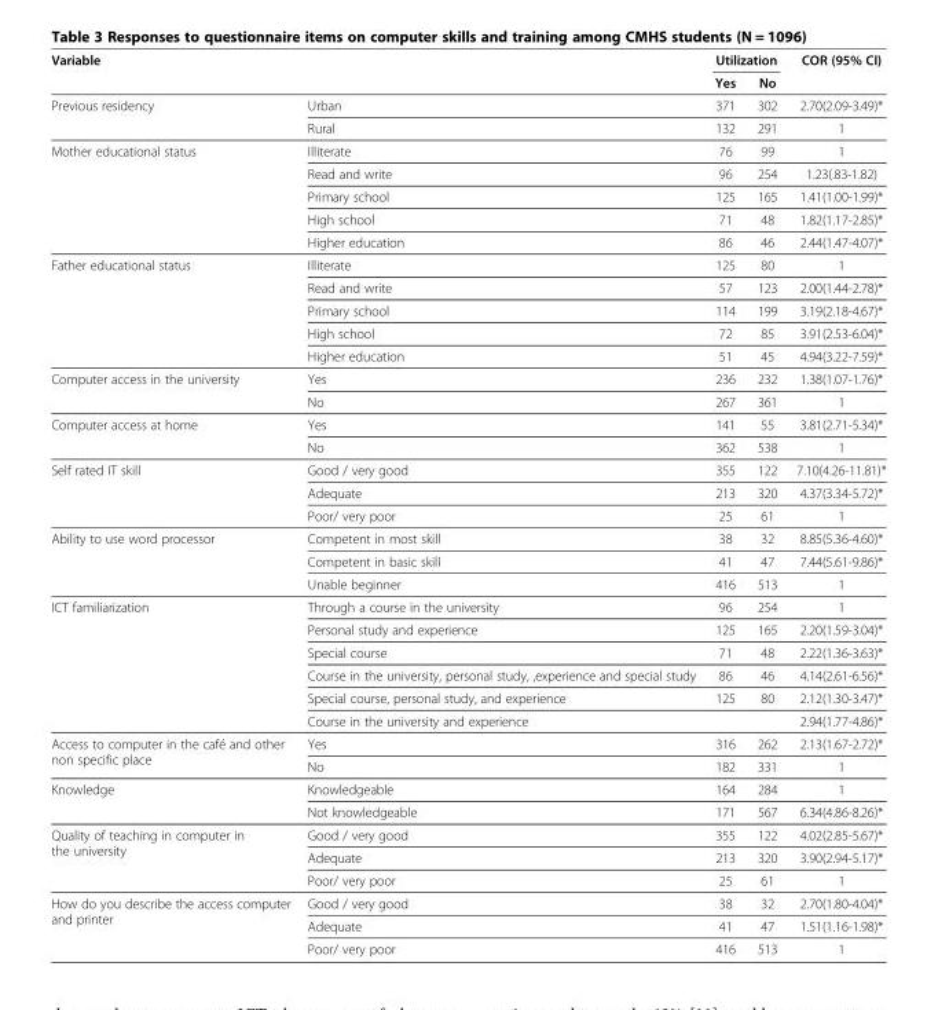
<table><thead><tr><td rowspan="2">Variable</td><td rowspan="2"></td><td colspan="2">Utilization</td><td rowspan="2">COR (95% CI)</td></tr><tr><td>Yes</td><td>No</td></tr></thead><tbody><tr><td rowspan="2">Previous residency</td><td>Urban</td><td>371</td><td>302</td><td>2.70(2.09-3.49)*</td></tr><tr><td>Rural</td><td>132</td><td>291</td><td>1</td></tr><tr><td rowspan="5">Mother educational status</td><td>Illiterate</td><td>76</td><td>99</td><td>1</td></tr><tr><td>Read and write</td><td>96</td><td>254</td><td>1.23(.83-1.82)</td></tr><tr><td>Primary school</td><td>125</td><td>165</td><td>1.41(1.00-1.99)*</td></tr><tr><td>High school</td><td>71</td><td>48</td><td>1.82(1.17-2.85)*</td></tr><tr><td>Higher education</td><td>86</td><td>46</td><td>2.44(1.47-4.07)*</td></tr><tr><td rowspan="5">Father educational status</td><td>Illiterate</td><td>125</td><td>80</td><td>1</td></tr><tr><td>Read and write</td><td>57</td><td>123</td><td>2.00(1.44-2.78)*</td></tr><tr><td>Primary school</td><td>114</td><td>199</td><td>3.19(2.18-4.67)*</td></tr><tr><td>High school</td><td>72</td><td>85</td><td>3.91(2.53-6.04)*</td></tr><tr><td>Higher education</td><td>51</td><td>45</td><td>4.94(3.22-7.59)*</td></tr><tr><td rowspan="2">Computer access in the university</td><td>Yes</td><td>236</td><td>232</td><td>1.38(1.07-1.76)*</td></tr><tr><td>No</td><td>267</td><td>361</td><td>1</td></tr><tr><td rowspan="2">Computer access at home</td><td>Yes</td><td>141</td><td>55</td><td>3.81(2.71-5.34)*</td></tr><tr><td>No</td><td>362</td><td>538</td><td>1</td></tr><tr><td rowspan="3">Self rated IT skill</td><td>Good / very good</td><td>355</td><td>122</td><td>7.10(4.26-11.81)*</td></tr><tr><td>Adequate</td><td>213</td><td>320</td><td>4.37(3.34-5.72)*</td></tr><tr><td>Poor/ very poor</td><td>25</td><td>61</td><td>1</td></tr><tr><td rowspan="3">Ability to use word processor</td><td>Competent in most skill</td><td>38</td><td>32</td><td>8.85(5.36-4.60)*</td></tr><tr><td>Competent in basic skill</td><td>41</td><td>47</td><td>7.44(5.61-9.86)*</td></tr><tr><td>Unable beginner</td><td>416</td><td>513</td><td>1</td></tr><tr><td rowspan="6">ICT familiarization</td><td>Through a course in the university</td><td>96</td><td>254</td><td>1</td></tr><tr><td>Personal study and experience</td><td>125</td><td>165</td><td>2.20(1.59-3.04)*</td></tr><tr><td>Special course</td><td>71</td><td>48</td><td>2.22(1.36-3.63)*</td></tr><tr><td>Course in the university, personal study, ,experience and special study</td><td>86</td><td>46</td><td>4.14(2.61-6.56)*</td></tr><tr><td>Special course, personal study, and experience</td><td>125</td><td>80</td><td>2.12(1.30-3.47)*</td></tr><tr><td>Course in the university and experience</td><td></td><td></td><td>2.94(1.77-4.86)*</td></tr><tr><td rowspan="2">Access to computer in the café and other non specific place</td><td>Yes</td><td>316</td><td>262</td><td>2.13(1.67-2.72)*</td></tr><tr><td>No</td><td>182</td><td>331</td><td>1</td></tr><tr><td rowspan="2">Knowledge</td><td>Knowledgeable</td><td>164</td><td>284</td><td>1</td></tr><tr><td>Not knowledgeable</td><td>171</td><td>567</td><td>6.34(4.86-8.26)*</td></tr><tr><td rowspan="3">Quality of teaching in computer in the university</td><td>Good / very good</td><td>355</td><td>122</td><td>4.02(2.85-5.67)*</td></tr><tr><td>Adequate</td><td>213</td><td>320</td><td>3.90(2.94-5.17)*</td></tr><tr><td>Poor/ very poor</td><td>25</td><td>61</td><td>1</td></tr><tr><td rowspan="3">How do you describe the access computer and printer</td><td>Good / very good</td><td>38</td><td>32</td><td>2.70(1.80-4.04)*</td></tr><tr><td>Adequate</td><td>41</td><td>47</td><td>1.51(1.16-1.98)*</td></tr><tr><td>Poor/ very poor</td><td>416</td><td>513</td><td>1</td></tr></tbody></table>